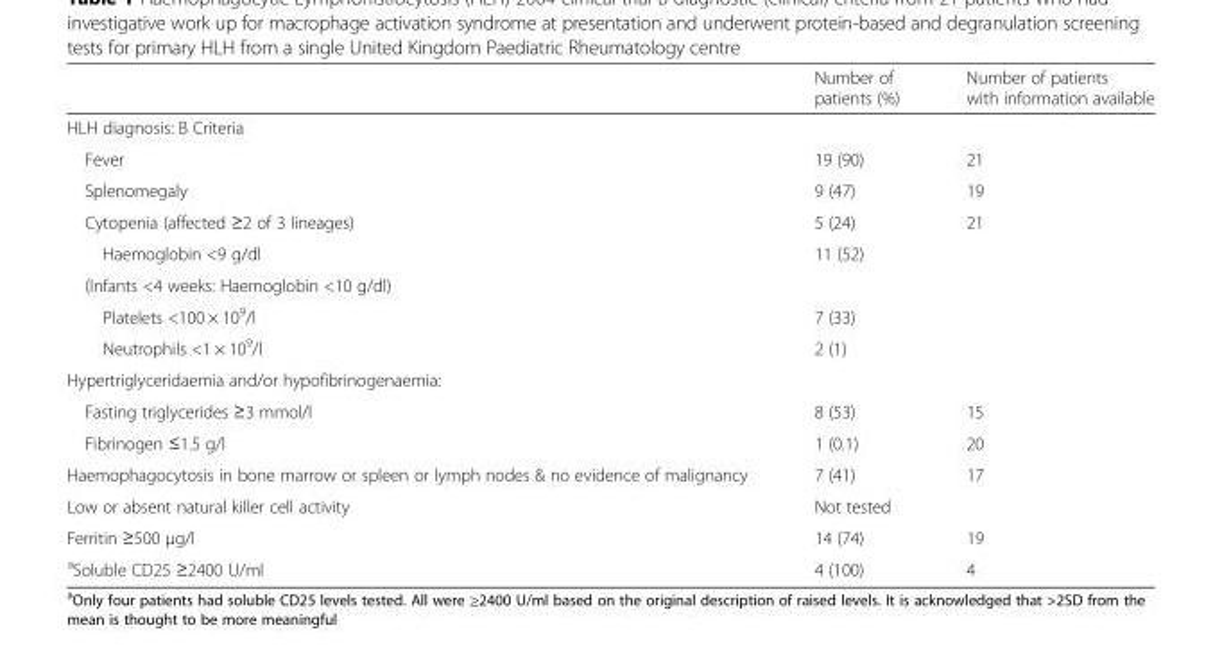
<table><thead><tr><td></td><td>Number of patients (%)</td><td>Number of patients with information available</td></tr></thead><tbody><tr><td colspan="3">HLH diagnosis: B Criteria</td></tr><tr><td>Fever</td><td>19 (90)</td><td>21</td></tr><tr><td>Splenomegaly</td><td>9 (47)</td><td>19</td></tr><tr><td>Cytopenia (affected ≥2 of 3 lineages)</td><td>5 (24)</td><td>21</td></tr><tr><td>Haemoglobin &lt;9 g/dl</td><td>11 (52)</td><td rowspan="4"></td></tr><tr><td colspan="2">(Infants &lt;4 weeks: Haemoglobin &lt;10 g/dl)</td></tr><tr><td>Platelets &lt;100 × 10<sup>9</sup>/l</td><td>7 (33)</td></tr><tr><td>Neutrophils &lt;1 × 10<sup>9</sup>/l</td><td>2 (1)</td></tr><tr><td colspan="3">Hypertriglyceridaemia and/or hypofibrinogenaemia:</td></tr><tr><td>Fasting triglycerides ≥3 mmol/l</td><td>8 (53)</td><td>15</td></tr><tr><td>Fibrinogen ≤1.5 g/l</td><td>1 (0.1)</td><td>20</td></tr><tr><td>Haemophagocytosis in bone marrow or spleen or lymph nodes &amp; no evidence of malignancy</td><td>7 (41)</td><td>17</td></tr><tr><td>Low or absent natural killer cell activity</td><td>Not tested</td><td></td></tr><tr><td>Ferritin ≥500 μg/l</td><td>14 (74)</td><td>19</td></tr><tr><td><sup>a</sup>Soluble CD25 ≥2400 U/ml</td><td>4 (100)</td><td>4</td></tr></tbody></table>